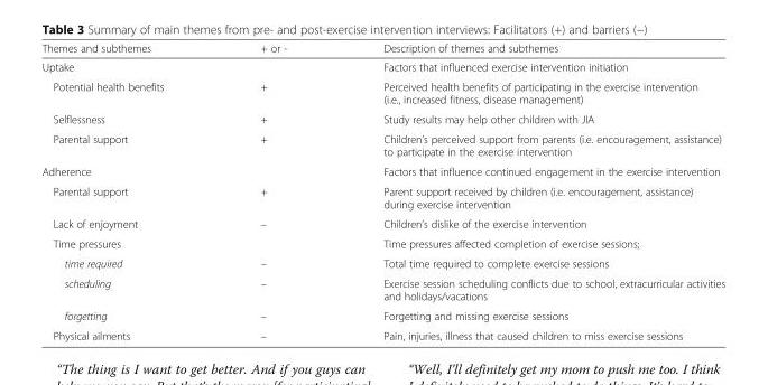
<table><thead><tr><td>Themes and subthemes</td><td>+ or -</td><td>Description of themes and subthemes</td></tr></thead><tbody><tr><td>Uptake</td><td></td><td>Factors that influenced exercise intervention initiation</td></tr><tr><td>Potential health benefits</td><td>+</td><td>Perceived health benefits of participating in the exercise intervention (i.e., increased fitness, disease management)</td></tr><tr><td>Selflessness</td><td>+</td><td>Study results may help other children with JIA</td></tr><tr><td>Parental support</td><td>+</td><td>Children’s perceived support from parents (i.e. encouragement, assistance) to participate in the exercise intervention</td></tr><tr><td>Adherence</td><td></td><td>Factors that influence continued engagement in the exercise intervention</td></tr><tr><td>Parental support</td><td>+</td><td>Parent support received by children (i.e. encouragement, assistance) during exercise intervention</td></tr><tr><td>Lack of enjoyment</td><td>–</td><td>Children’s dislike of the exercise intervention</td></tr><tr><td>Time pressures</td><td></td><td>Time pressures affected completion of exercise sessions;</td></tr><tr><td>time required</td><td>–</td><td>Total time required to complete exercise sessions</td></tr><tr><td>scheduling</td><td>–</td><td>Exercise session scheduling conflicts due to school, extracurricular activities and holidays/vacations</td></tr><tr><td>forgetting</td><td>–</td><td>Forgetting and missing exercise sessions</td></tr><tr><td>Physical ailments</td><td>–</td><td>Pain, injuries, illness that caused children to miss exercise sessions</td></tr></tbody></table>